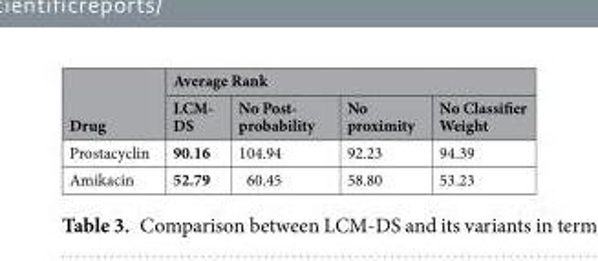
<table><thead><tr><td rowspan="2">Drug</td><td colspan="4">Average Rank</td></tr><tr><td>LCM- DS</td><td>No Post- probability</td><td>No proximity</td><td>No Classifier Weight</td></tr></thead><tbody><tr><td>Prostacyclin</td><td>90.16</td><td>104.94</td><td>92.23</td><td>94.39</td></tr><tr><td>Amikacin</td><td>52.79</td><td>60.45</td><td>58.80</td><td>53.23</td></tr></tbody></table>